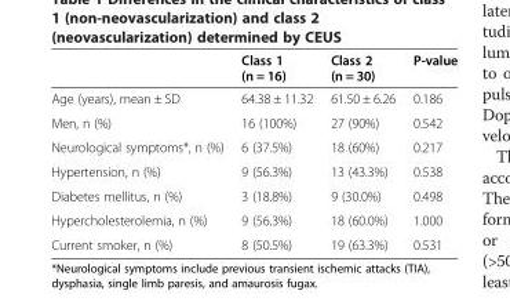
<table><thead><tr><td></td><td>Class 1 (n = 16)</td><td>Class 2 (n = 30)</td><td>P-value</td></tr></thead><tbody><tr><td>Age (years), mean ± SD</td><td>64.38 ± 11.32</td><td>61.50 ± 6.26</td><td>0.186</td></tr><tr><td>Men, n (%)</td><td>16 (100%)</td><td>27 (90%)</td><td>0.542</td></tr><tr><td>Neurological symptoms*, n (%)</td><td>6 (37.5%)</td><td>18 (60%)</td><td>0.217</td></tr><tr><td>Hypertension, n (%)</td><td>9 (56.3%)</td><td>13 (43.3%)</td><td>0.538</td></tr><tr><td>Diabetes mellitus, n (%)</td><td>3 (18.8%)</td><td>9 (30.0%)</td><td>0.498</td></tr><tr><td>Hypercholesterolemia, n (%)</td><td>9 (56.3%)</td><td>18 (60.0%)</td><td>1.000</td></tr><tr><td>Current smoker, n (%)</td><td>8 (50.5%)</td><td>19 (63.3%)</td><td>0.531</td></tr></tbody></table>